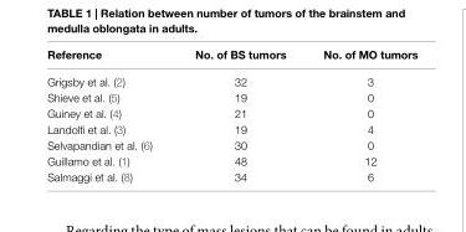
<table><thead><tr><td>Reference</td><td>No. of Bs tumors</td><td>No. of Mo tumors</td></tr></thead><tbody><tr><td>Grigsby et al. (2)</td><td>32</td><td>3</td></tr><tr><td>Shieve et al. (5)</td><td>19</td><td>0</td></tr><tr><td>Guiney et al. (4)</td><td>21</td><td>0</td></tr><tr><td>Landolfi et al. (3)</td><td>19</td><td>4</td></tr><tr><td>Selvapandian et al. (6)</td><td>30</td><td>0</td></tr><tr><td>Guillamo et al. (1)</td><td>48</td><td>12</td></tr><tr><td>Salmaggi et al. (8)</td><td>34</td><td>6</td></tr></tbody></table>